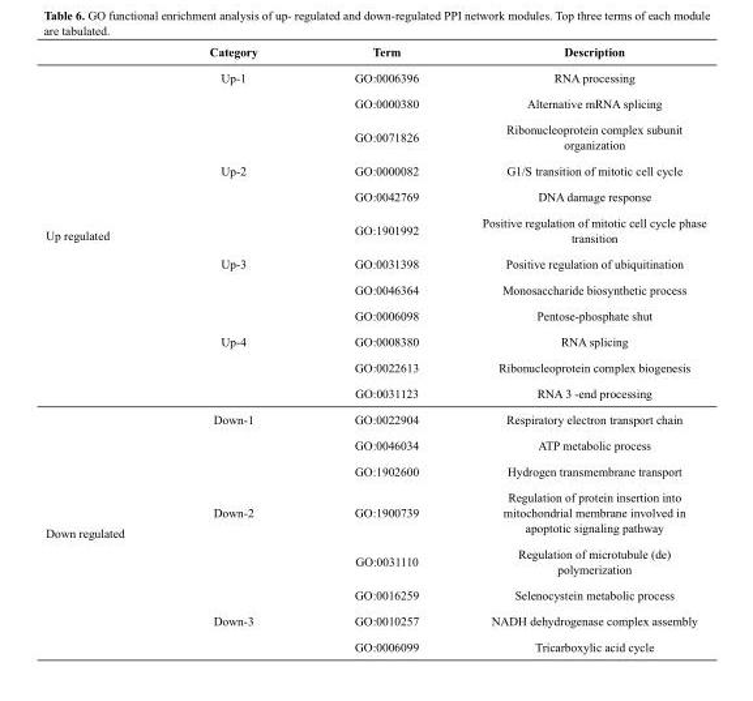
<table><thead><tr><td></td><td>Category</td><td>Term</td><td>Description</td></tr></thead><tbody><tr><td rowspan="12">Up regulated</td><td>Up-1</td><td>GO:0006396</td><td>RNA processing</td></tr><tr><td></td><td>GO:0000380</td><td>Alternative mRNA splicing</td></tr><tr><td></td><td>GO:0071826</td><td>Ribonucleoprotein complex subunit organization</td></tr><tr><td>Up-2</td><td>GO:0000082</td><td>G1/S transition of mitotic cell cycle</td></tr><tr><td></td><td>GO:0042769</td><td>DNA damage response</td></tr><tr><td></td><td>GO:1901992</td><td>Positive regulation of mitotic cell cycle phase transition</td></tr><tr><td>Up-3</td><td>GO:0031398</td><td>Positive regulation of ubiquitination</td></tr><tr><td></td><td>GO:0046364</td><td>Monosaccharide biosynthetic process</td></tr><tr><td></td><td>GO:0006098</td><td>Pentose-phosphate shut</td></tr><tr><td>Up-4</td><td>GO:0008380</td><td>RNA splicing</td></tr><tr><td></td><td>GO:0022613</td><td>Ribonucleoprotein complex biogenesis</td></tr><tr><td></td><td>GO:0031123</td><td>RNA 3 -end processing</td></tr><tr><td rowspan="8">Down regulated</td><td>Down-1</td><td>GO:0022904</td><td>Respiratory electron transport chain</td></tr><tr><td></td><td>GO:0046034</td><td>ATP metabolic process</td></tr><tr><td></td><td>GO:1902600</td><td>Hydrogen transmembrane transport</td></tr><tr><td>Down-2</td><td>GO:1900739</td><td>Regulation of protein insertion into mitochondrial membrane involved in apoptotic signaling pathway</td></tr><tr><td></td><td>GO:0031110</td><td>Regulation of microtubule (de) polymerization</td></tr><tr><td></td><td>GO:0016259</td><td>Selenocystein metabolic process</td></tr><tr><td>Down-3</td><td>GO:0010257</td><td>NADH dehydrogenase complex assembly</td></tr><tr><td></td><td>GO:0006099</td><td>Tricarboxylic acid cycle</td></tr></tbody></table>